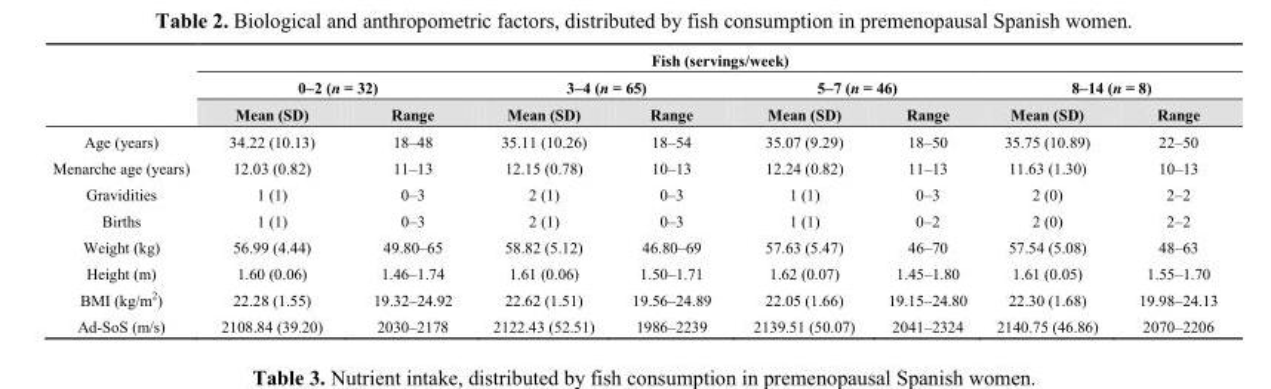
<table><thead><tr><td rowspan="3"></td><td colspan="8">Fish (servings/week)</td></tr><tr><td colspan="2">0–2 (n = 32)</td><td colspan="2">3–4 (n = 65)</td><td colspan="2">5–7 (n = 46)</td><td colspan="2">8–14 (n = 8)</td></tr><tr><td>Mean (SD)</td><td>Range</td><td>Mean (SD)</td><td>Range</td><td>Mean (SD)</td><td>Range</td><td>Mean (SD)</td><td>Range</td></tr></thead><tbody><tr><td>Age (years)</td><td>34.22 (10.13)</td><td>18–48</td><td>35.11 (10.26)</td><td>18–54</td><td>35.07 (9.29)</td><td>18–50</td><td>35.75 (10.89)</td><td>22–50</td></tr><tr><td>Menarche age (years)</td><td>12.03 (0.82)</td><td>11–13</td><td>12.15 (0.78)</td><td>10–13</td><td>12.24 (0.82)</td><td>11–13</td><td>11.63 (1.30)</td><td>10–13</td></tr><tr><td>Gravidities</td><td>1 (1)</td><td>0–3</td><td>2 (1)</td><td>0–3</td><td>1 (1)</td><td>0–3</td><td>2 (0)</td><td>2–2</td></tr><tr><td>Births</td><td>1 (1)</td><td>0–3</td><td>2 (1)</td><td>0–3</td><td>1 (1)</td><td>0–2</td><td>2 (0)</td><td>2–2</td></tr><tr><td>Weight (kg)</td><td>56.99 (4.44)</td><td>49.80–65</td><td>58.82 (5.12)</td><td>46.80–69</td><td>57.63 (5.47)</td><td>46–70</td><td>57.54 (5.08)</td><td>48–63</td></tr><tr><td>Height (m)</td><td>1.60 (0.06)</td><td>1.46–1.74</td><td>1.61 (0.06)</td><td>1.50–1.71</td><td>1.62 (0.07)</td><td>1.45–1.80</td><td>1.61 (0.05)</td><td>1.55–1.70</td></tr><tr><td>BMI (kg/m<sup>2</sup>)</td><td>22.28 (1.55)</td><td>19.32–24.92</td><td>22.62 (1.51)</td><td>19.56–24.89</td><td>22.05 (1.66)</td><td>19.15–24.80</td><td>22.30 (1.68)</td><td>19.98–24.13</td></tr><tr><td>Ad-SoS (m/s)</td><td>2108.84 (39.20)</td><td>2030–2178</td><td>2122.43 (52.51)</td><td>1986–2239</td><td>2139.51 (50.07)</td><td>2041–2324</td><td>2140.75 (46.86)</td><td>2070–2206</td></tr></tbody></table>